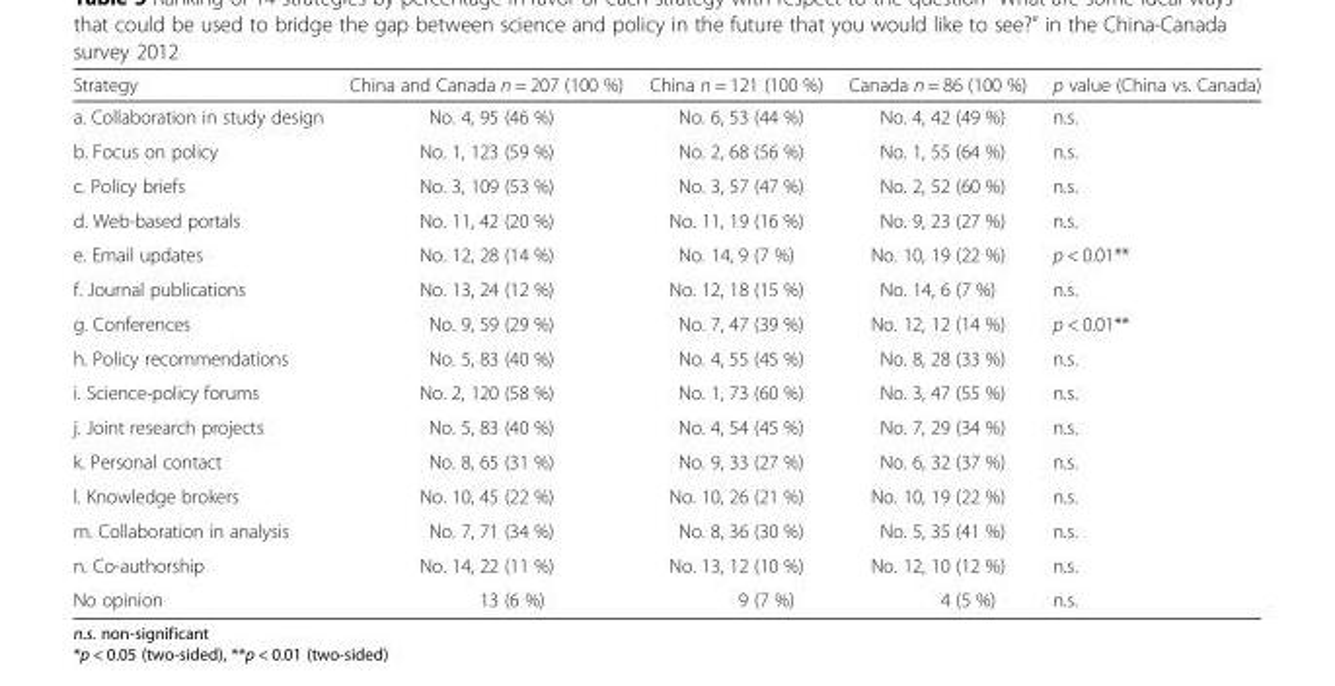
<table><thead><tr><td>Strategy</td><td>China and Canada n = 207 (100 %)</td><td>China n = 121 (100 %)</td><td>Canada n = 86 (100 %)</td><td>p value (China vs. Canada)</td></tr></thead><tbody><tr><td>a. Collaboration in study design</td><td>No. 4, 95 (46 %)</td><td>No. 6, 53 (44 %)</td><td>No. 4, 42 (49 %)</td><td>n.s.</td></tr><tr><td>b. Focus on policy</td><td>No. 1, 123 (59 %)</td><td>No. 2, 68 (56 %)</td><td>No. 1, 55 (64 %)</td><td>n.s.</td></tr><tr><td>c. Policy briefs</td><td>No. 3, 109 (53 %)</td><td>No. 3, 57 (47 %)</td><td>No. 2, 52 (60 %)</td><td>n.s.</td></tr><tr><td>d. Web-based portals</td><td>No. 11, 42 (20 %)</td><td>No. 11, 19 (16 %)</td><td>No. 9, 23 (27 %)</td><td>n.s.</td></tr><tr><td>e. Email updates</td><td>No. 12, 28 (14 %)</td><td>No. 14, 9 (7 %)</td><td>No. 10, 19 (22 %)</td><td>p &lt; 0.01**</td></tr><tr><td>f. Journal publications</td><td>No. 13, 24 (12 %)</td><td>No. 12, 18 (15 %)</td><td>No. 14, 6 (7 %)</td><td>n.s.</td></tr><tr><td>g. Conferences</td><td>No. 9, 59 (29 %)</td><td>No. 7, 47 (39 %)</td><td>No. 12, 12 (14 %)</td><td>p &lt; 0.01**</td></tr><tr><td>h. Policy recommendations</td><td>No. 5, 83 (40 %)</td><td>No. 4, 55 (45 %)</td><td>No. 8, 28 (33 %)</td><td>n.s.</td></tr><tr><td>i. Science-policy forums</td><td>No. 2, 120 (58 %)</td><td>No. 1, 73 (60 %)</td><td>No. 3, 47 (55 %)</td><td>n.s.</td></tr><tr><td>j. Joint research projects</td><td>No. 5, 83 (40 %)</td><td>No. 4, 54 (45 %)</td><td>No. 7, 29 (34 %)</td><td>n.s.</td></tr><tr><td>k. Personal contact</td><td>No. 8, 65 (31 %)</td><td>No. 9, 33 (27 %)</td><td>No. 6, 32 (37 %)</td><td>n.s.</td></tr><tr><td>l. Knowledge brokers</td><td>No. 10, 45 (22 %)</td><td>No. 10, 26 (21 %)</td><td>No. 10, 19 (22 %)</td><td>n.s.</td></tr><tr><td>m. Collaboration in analysis</td><td>No. 7, 71 (34 %)</td><td>No. 8, 36 (30 %)</td><td>No. 5, 35 (41 %)</td><td>n.s.</td></tr><tr><td>n. Co-authorship</td><td>No. 14, 22 (11 %)</td><td>No. 13, 12 (10 %)</td><td>No. 12, 10 (12 %)</td><td>n.s.</td></tr><tr><td>No opinion</td><td>13 (6 %)</td><td>9 (7 %)</td><td>4 (5 %)</td><td>n.s.</td></tr></tbody></table>